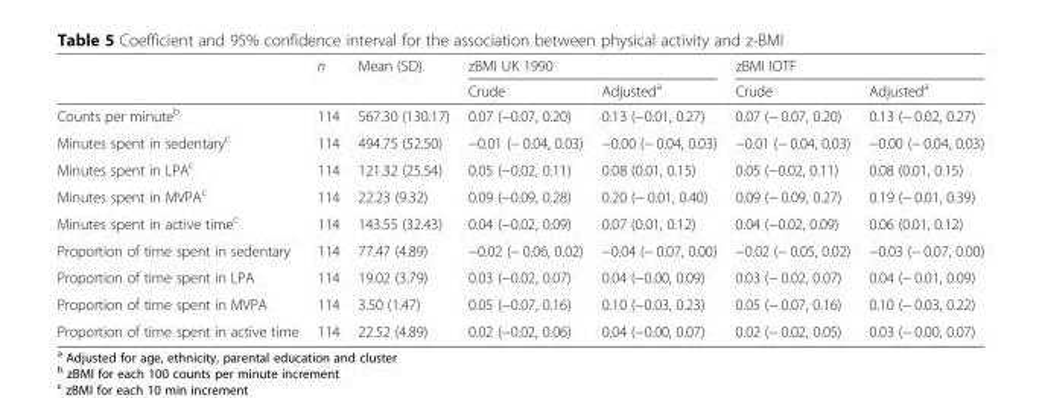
<table><thead><tr><td rowspan="2"></td><td rowspan="2">n</td><td rowspan="2">Mean (SD)</td><td colspan="2">zBMI UK 1990</td><td colspan="2">zBMI IOTF</td></tr><tr><td>Crude</td><td>Adjusted<sup>a</sup></td><td>Crude</td><td>Adjusted<sup>a</sup></td></tr></thead><tbody><tr><td>Counts per minute<sup>b</sup></td><td>114</td><td>567.30 (130.17)</td><td>0.07 (−0.07, 0.20)</td><td>0.13 (−0.01, 0.27)</td><td>0.07 (− 0.07, 0.20)</td><td>0.13 (− 0.02, 0.27)</td></tr><tr><td>Minutes spent in sedentary<sup>c</sup></td><td>114</td><td>494.75 (52.50)</td><td>−0.01 (− 0.04, 0.03)</td><td>−0.00 (− 0.04, 0.03)</td><td>−0.01 (− 0.04, 0.03)</td><td>−0.00 (− 0.04, 0.03)</td></tr><tr><td>Minutes spent in LPA<sup>c</sup></td><td>114</td><td>121.32 (25.54)</td><td>0.05 (−0.02, 0.11)</td><td>0.08 (0.01, 0.15)</td><td>0.05 (−0.02, 0.11)</td><td>0.08 (0.01, 0.15)</td></tr><tr><td>Minutes spent in MVPA<sup>c</sup></td><td>114</td><td>22.23 (9.32)</td><td>0.09 (−0.09, 0.28)</td><td>0.20 (− 0.01, 0.40)</td><td>0.09 (− 0.09, 0.27)</td><td>0.19 (− 0.01, 0.39)</td></tr><tr><td>Minutes spent in active time<sup>c</sup></td><td>114</td><td>143.55 (32.43)</td><td>0.04 (−0.02, 0.09)</td><td>0.07 (0.01, 0.12)</td><td>0.04 (−0.02, 0.09)</td><td>0.06 (0.01, 0.12)</td></tr><tr><td>Proportion of time spent in sedentary</td><td>114</td><td>77.47 (4.89)</td><td>−0.02 (− 0.06, 0.02)</td><td>−0.04 (− 0.07, 0.00)</td><td>−0.02 (− 0.05, 0.02)</td><td>−0.03 (− 0.07, 0.00)</td></tr><tr><td>Proportion of time spent in LPA</td><td>114</td><td>19.02 (3.79)</td><td>0.03 (−0.02, 0.07)</td><td>0.04 (−0.00, 0.09)</td><td>0.03 (− 0.02, 0.07)</td><td>0.04 (− 0.01, 0.09)</td></tr><tr><td>Proportion of time spent in MVPA</td><td>114</td><td>3.50 (1.47)</td><td>0.05 (−0.07, 0.16)</td><td>0.10 (−0.03, 0.23)</td><td>0.05 (− 0.07, 0.16)</td><td>0.10 (− 0.03, 0.22)</td></tr><tr><td>Proportion of time spent in active time</td><td>114</td><td>22.52 (4.89)</td><td>0.02 (−0.02, 0.06)</td><td>0.04 (−0.00, 0.07)</td><td>0.02 (− 0.02, 0.05)</td><td>0.03 (− 0.00, 0.07)</td></tr></tbody></table>